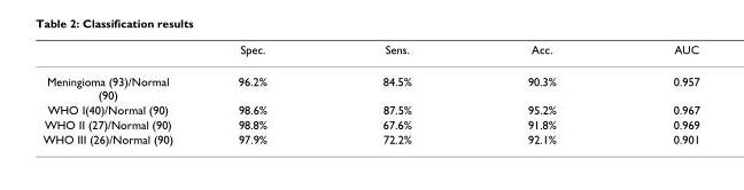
<table><thead><tr><td></td><td>Spec.</td><td>Sens.</td><td>Acc.</td><td>AUC</td></tr></thead><tbody><tr><td>Meningioma (93)/Normal (90)</td><td>96.2%</td><td>84.5%</td><td>90.3%</td><td>0.957</td></tr><tr><td>WHO I(40)/Normal (90)</td><td>98.6%</td><td>87.5%</td><td>95.2%</td><td>0.967</td></tr><tr><td>WHO II (27)/Normal (90)</td><td>98.8%</td><td>67.6%</td><td>91.8%</td><td>0.969</td></tr><tr><td>WHO III (26)/Normal (90)</td><td>97.9%</td><td>72.2%</td><td>92.1%</td><td>0.901</td></tr></tbody></table>